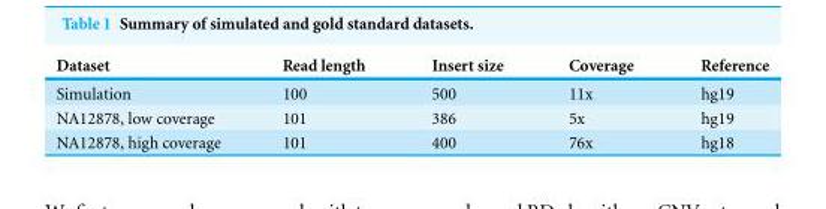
<table><thead><tr><td>Dataset</td><td>Read length</td><td>Insert size</td><td>Coverage</td><td>Reference</td></tr></thead><tbody><tr><td>Simulation</td><td>100</td><td>500</td><td>11x</td><td>hg19</td></tr><tr><td>NA12878, low coverage</td><td>101</td><td>386</td><td>5x</td><td>hg19</td></tr><tr><td>NA12878, high coverage</td><td>101</td><td>400</td><td>76x</td><td>hg18</td></tr></tbody></table>